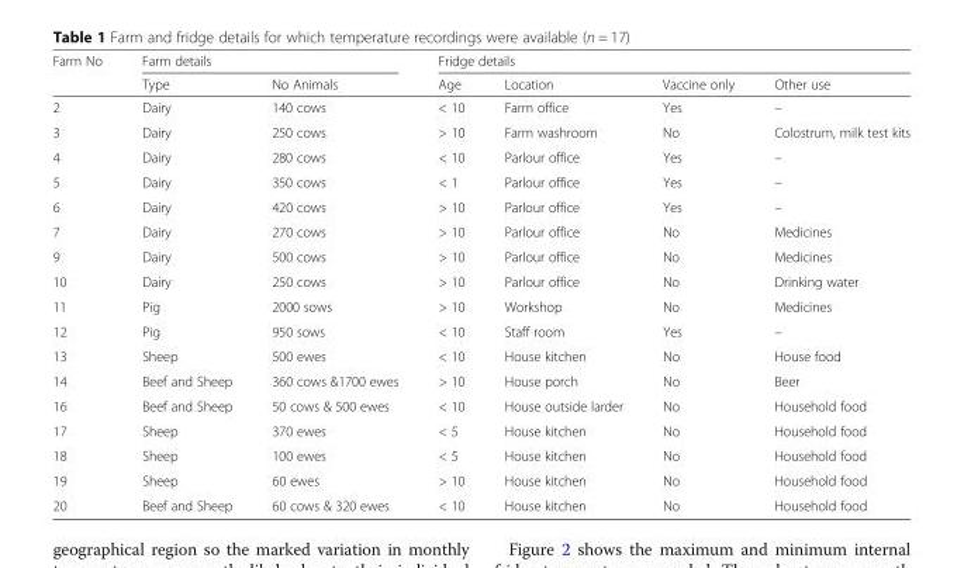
<table><thead><tr><td rowspan="2">Farm No</td><td colspan="2">Farm details</td><td colspan="4">Fridge details</td></tr><tr><td>Type</td><td>No Animals</td><td>Age</td><td>Location</td><td>Vaccine only</td><td>Other use</td></tr></thead><tbody><tr><td>2</td><td>Dairy</td><td>140 cows</td><td>&lt; 10</td><td>Farm office</td><td>Yes</td><td>–</td></tr><tr><td>3</td><td>Dairy</td><td>250 cows</td><td>&gt; 10</td><td>Farm washroom</td><td>No</td><td>Colostrum, milk test kits</td></tr><tr><td>4</td><td>Dairy</td><td>280 cows</td><td>&lt; 10</td><td>Parlour office</td><td>Yes</td><td>–</td></tr><tr><td>5</td><td>Dairy</td><td>350 cows</td><td>&lt; 1</td><td>Parlour office</td><td>Yes</td><td>–</td></tr><tr><td>6</td><td>Dairy</td><td>420 cows</td><td>&gt; 10</td><td>Parlour office</td><td>Yes</td><td>–</td></tr><tr><td>7</td><td>Dairy</td><td>270 cows</td><td>&gt; 10</td><td>Parlour office</td><td>No</td><td>Medicines</td></tr><tr><td>9</td><td>Dairy</td><td>500 cows</td><td>&gt; 10</td><td>Parlour office</td><td>No</td><td>Medicines</td></tr><tr><td>10</td><td>Dairy</td><td>250 cows</td><td>&gt; 10</td><td>Parlour office</td><td>No</td><td>Drinking water</td></tr><tr><td>11</td><td>Pig</td><td>2000 sows</td><td>&gt; 10</td><td>Workshop</td><td>No</td><td>Medicines</td></tr><tr><td>12</td><td>Pig</td><td>950 sows</td><td>&lt; 10</td><td>Staff room</td><td>Yes</td><td>–</td></tr><tr><td>13</td><td>Sheep</td><td>500 ewes</td><td>&lt; 10</td><td>House kitchen</td><td>No</td><td>House food</td></tr><tr><td>14</td><td>Beef and Sheep</td><td>360 cows &amp;1700 ewes</td><td>&gt; 10</td><td>House porch</td><td>No</td><td>Beer</td></tr><tr><td>16</td><td>Beef and Sheep</td><td>50 cows &amp; 500 ewes</td><td>&lt; 10</td><td>House outside larder</td><td>No</td><td>Household food</td></tr><tr><td>17</td><td>Sheep</td><td>370 ewes</td><td>&lt; 5</td><td>House kitchen</td><td>No</td><td>Household food</td></tr><tr><td>18</td><td>Sheep</td><td>100 ewes</td><td>&lt; 5</td><td>House kitchen</td><td>No</td><td>Household food</td></tr><tr><td>19</td><td>Sheep</td><td>60 ewes</td><td>&gt; 10</td><td>House kitchen</td><td>No</td><td>Household food</td></tr><tr><td>20</td><td>Beef and Sheep</td><td>60 cows &amp; 320 ewes</td><td>&lt; 10</td><td>House kitchen</td><td>No</td><td>Household food</td></tr></tbody></table>